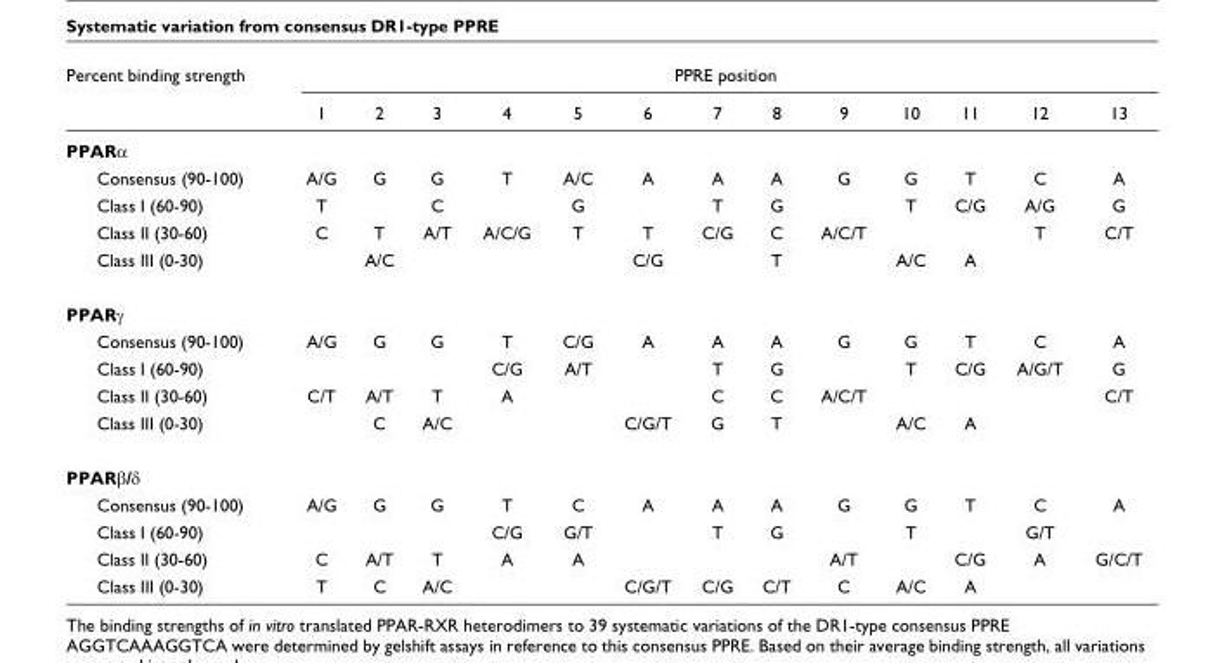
<table><thead><tr><td rowspan="2">Percent binding strength</td><td colspan="13">PPRE position</td></tr><tr><td>1</td><td>2</td><td>3</td><td>4</td><td>5</td><td>6</td><td>7</td><td>8</td><td>9</td><td>10</td><td>11</td><td>12</td><td>13</td></tr></thead><tbody><tr><td colspan="14">PPARα</td></tr><tr><td>Consensus (90-100)</td><td>A/G</td><td>G</td><td>G</td><td>T</td><td>A/C</td><td>A</td><td>A</td><td>A</td><td>G</td><td>G</td><td>T</td><td>C</td><td>A</td></tr><tr><td>Class I (60-90)</td><td>T</td><td></td><td>C</td><td></td><td>G</td><td></td><td>T</td><td>G</td><td></td><td>T</td><td>C/G</td><td>A/G</td><td>G</td></tr><tr><td>Class II (30-60)</td><td>C</td><td>T</td><td>A/T</td><td>A/C/G</td><td>T</td><td>T</td><td>C/G</td><td>C</td><td>A/C/T</td><td></td><td></td><td>T</td><td>C/T</td></tr><tr><td>Class III (0-30)</td><td></td><td>A/C</td><td></td><td></td><td></td><td>C/G</td><td></td><td>T</td><td></td><td>A/C</td><td>A</td><td></td><td></td></tr><tr><td colspan="14">PPARγ</td></tr><tr><td>Consensus (90-100)</td><td>A/G</td><td>G</td><td>G</td><td>T</td><td>C/G</td><td>A</td><td>A</td><td>A</td><td>G</td><td>G</td><td>T</td><td>C</td><td>A</td></tr><tr><td>Class I (60-90)</td><td></td><td></td><td></td><td>C/G</td><td>A/T</td><td></td><td>T</td><td>G</td><td></td><td>T</td><td>C/G</td><td>A/G/T</td><td>G</td></tr><tr><td>Class II (30-60)</td><td>C/T</td><td>A/T</td><td>T</td><td>A</td><td></td><td></td><td>C</td><td>C</td><td>A/C/T</td><td></td><td></td><td></td><td>C/T</td></tr><tr><td>Class III (0-30)</td><td></td><td>C</td><td>A/C</td><td></td><td></td><td>C/G/T</td><td>G</td><td>T</td><td></td><td>A/C</td><td>A</td><td></td><td></td></tr><tr><td colspan="14">PPARβ/δ</td></tr><tr><td>Consensus (90-100)</td><td>A/G</td><td>G</td><td>G</td><td>T</td><td>C</td><td>A</td><td>A</td><td>A</td><td>G</td><td>G</td><td>T</td><td>C</td><td>A</td></tr><tr><td>Class I (60-90)</td><td></td><td></td><td></td><td>C/G</td><td>G/T</td><td></td><td>T</td><td>G</td><td></td><td>T</td><td></td><td>G/T</td><td></td></tr><tr><td>Class II (30-60)</td><td>C</td><td>A/T</td><td>T</td><td>A</td><td>A</td><td></td><td></td><td></td><td>A/T</td><td></td><td>C/G</td><td>A</td><td>G/C/T</td></tr><tr><td>Class III (0-30)</td><td>T</td><td>C</td><td>A/C</td><td></td><td></td><td>C/G/T</td><td>C/G</td><td>C/T</td><td>C</td><td>A/C</td><td>A</td><td></td><td></td></tr></tbody></table>